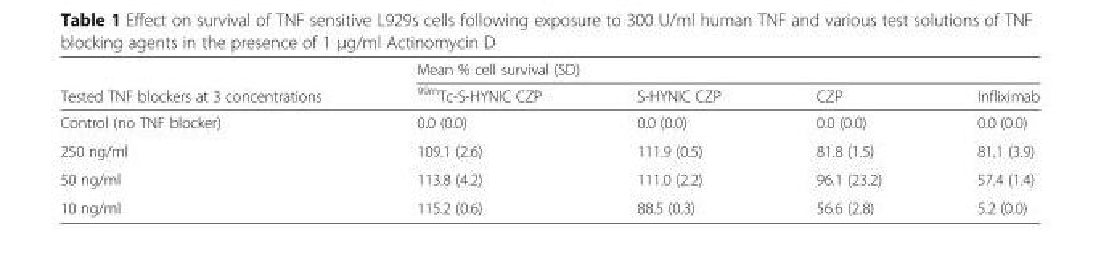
<table><thead><tr><td rowspan="2">Tested TNF blockers at 3 concentrations</td><td colspan="4">Mean % cell survival (SD)</td></tr><tr><td><sup>99m</sup>Tc-S-HYNIC CZP</td><td>S-HYNIC CZP</td><td>CZP</td><td>Infliximab</td></tr></thead><tbody><tr><td>Control (no TNF blocker)</td><td>0.0 (0.0)</td><td>0.0 (0.0)</td><td>0.0 (0.0)</td><td>0.0 (0.0)</td></tr><tr><td>250 ng/ml</td><td>109.1 (2.6)</td><td>111.9 (0.5)</td><td>81.8 (1.5)</td><td>81.1 (3.9)</td></tr><tr><td>50 ng/ml</td><td>113.8 (4.2)</td><td>111.0 (2.2)</td><td>96.1 (23.2)</td><td>57.4 (1.4)</td></tr><tr><td>10 ng/ml</td><td>115.2 (0.6)</td><td>88.5 (0.3)</td><td>56.6 (2.8)</td><td>5.2 (0.0)</td></tr></tbody></table>